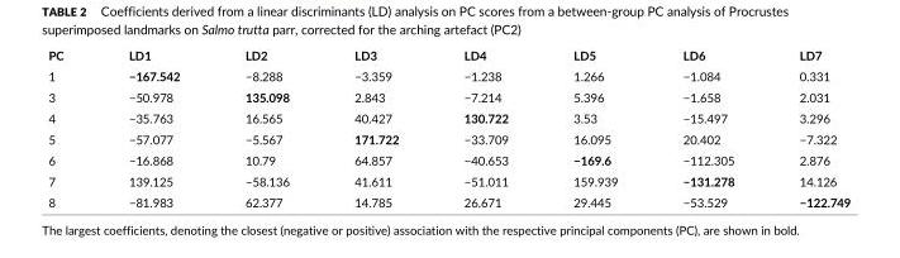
<table><thead><tr><td>PC</td><td>LD1</td><td>LD2</td><td>LD3</td><td>LD4</td><td>LD5</td><td>LD6</td><td>LD7</td></tr></thead><tbody><tr><td>1</td><td>−167.542</td><td>−8.288</td><td>−3.359</td><td>−1.238</td><td>1.266</td><td>−1.084</td><td>0.331</td></tr><tr><td>3</td><td>−50.978</td><td>135.098</td><td>2.843</td><td>−7.214</td><td>5.396</td><td>−1.658</td><td>2.031</td></tr><tr><td>4</td><td>−35.763</td><td>16.565</td><td>40.427</td><td>130.722</td><td>3.53</td><td>−15.497</td><td>3.296</td></tr><tr><td>5</td><td>−57.077</td><td>−5.567</td><td>171.722</td><td>−33.709</td><td>16.095</td><td>20.402</td><td>−7.322</td></tr><tr><td>6</td><td>−16.868</td><td>10.79</td><td>64.857</td><td>−40.653</td><td>−169.6</td><td>−112.305</td><td>2.876</td></tr><tr><td>7</td><td>139.125</td><td>−58.136</td><td>41.611</td><td>−51.011</td><td>159.939</td><td>−131.278</td><td>14.126</td></tr><tr><td>8</td><td>−81.983</td><td>62.377</td><td>14.785</td><td>26.671</td><td>29.445</td><td>−53.529</td><td>−122.749</td></tr></tbody></table>